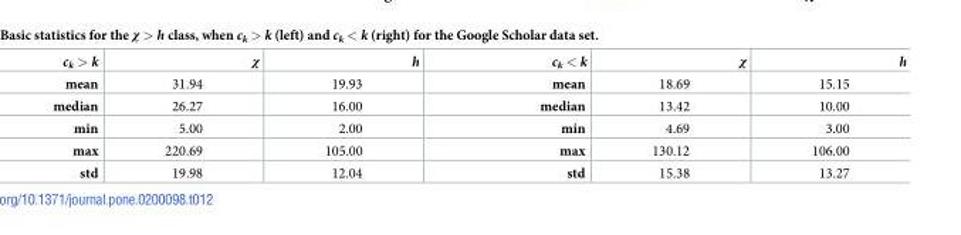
<table><thead><tr><td>c<sub>k</sub> &gt; k</td><td>χ</td><td>h</td><td>c<sub>k</sub> &lt; k</td><td>χ</td><td>h</td></tr></thead><tbody><tr><td>mean</td><td>31.94</td><td>19.93</td><td>mean</td><td>18.69</td><td>15.15</td></tr><tr><td>median</td><td>26.27</td><td>16.00</td><td>median</td><td>13.42</td><td>10.00</td></tr><tr><td>min</td><td>5.00</td><td>2.00</td><td>min</td><td>4.69</td><td>3.00</td></tr><tr><td>max</td><td>220.69</td><td>105.00</td><td>max</td><td>130.12</td><td>106.00</td></tr><tr><td>std</td><td>19.98</td><td>12.04</td><td>std</td><td>15.38</td><td>13.27</td></tr></tbody></table>